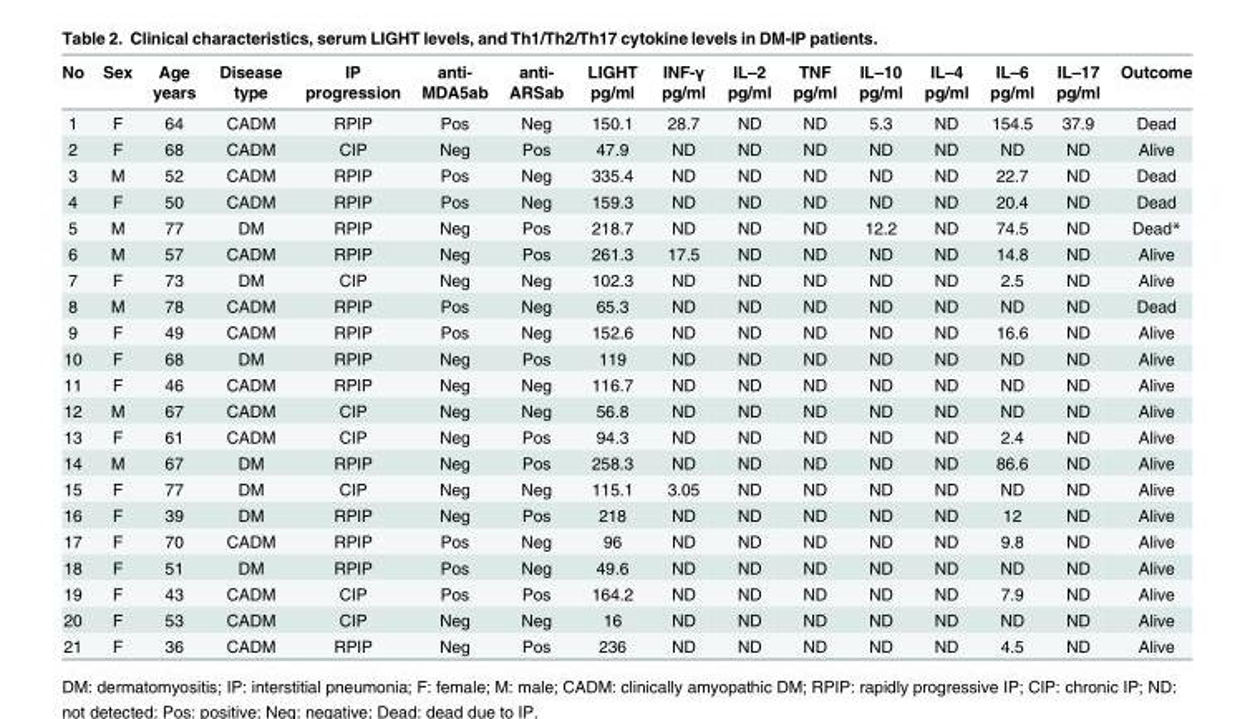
<table><thead><tr><td>No</td><td>Sex</td><td>Age years</td><td>Disease type</td><td>IP progression</td><td>anti- MDA5ab</td><td>anti- ARSab</td><td>LIGHT pg/ml</td><td>INF-γ pg/ml</td><td>IL–2 pg/ml</td><td>TNF pg/ml</td><td>IL–10 pg/ml</td><td>IL–4 pg/ml</td><td>IL–6 pg/ml</td><td>IL–17 pg/ml</td><td>Outcome</td></tr></thead><tbody><tr><td>1</td><td>F</td><td>64</td><td>CADM</td><td>RPIP</td><td>Pos</td><td>Neg</td><td>150.1</td><td>28.7</td><td>ND</td><td>ND</td><td>5.3</td><td>ND</td><td>154.5</td><td>37.9</td><td>Dead</td></tr><tr><td>2</td><td>F</td><td>68</td><td>CADM</td><td>CIP</td><td>Neg</td><td>Pos</td><td>47.9</td><td>ND</td><td>ND</td><td>ND</td><td>ND</td><td>ND</td><td>ND</td><td>ND</td><td>Alive</td></tr><tr><td>3</td><td>M</td><td>52</td><td>CADM</td><td>RPIP</td><td>Pos</td><td>Neg</td><td>335.4</td><td>ND</td><td>ND</td><td>ND</td><td>ND</td><td>ND</td><td>22.7</td><td>ND</td><td>Dead</td></tr><tr><td>4</td><td>F</td><td>50</td><td>CADM</td><td>RPIP</td><td>Pos</td><td>Neg</td><td>159.3</td><td>ND</td><td>ND</td><td>ND</td><td>ND</td><td>ND</td><td>20.4</td><td>ND</td><td>Dead</td></tr><tr><td>5</td><td>M</td><td>77</td><td>DM</td><td>RPIP</td><td>Neg</td><td>Pos</td><td>218.7</td><td>ND</td><td>ND</td><td>ND</td><td>12.2</td><td>ND</td><td>74.5</td><td>ND</td><td>Dead*</td></tr><tr><td>6</td><td>M</td><td>57</td><td>CADM</td><td>RPIP</td><td>Neg</td><td>Pos</td><td>261.3</td><td>17.5</td><td>ND</td><td>ND</td><td>ND</td><td>ND</td><td>14.8</td><td>ND</td><td>Alive</td></tr><tr><td>7</td><td>F</td><td>73</td><td>DM</td><td>CIP</td><td>Neg</td><td>Neg</td><td>102.3</td><td>ND</td><td>ND</td><td>ND</td><td>ND</td><td>ND</td><td>2.5</td><td>ND</td><td>Alive</td></tr><tr><td>8</td><td>M</td><td>78</td><td>CADM</td><td>RPIP</td><td>Pos</td><td>Neg</td><td>65.3</td><td>ND</td><td>ND</td><td>ND</td><td>ND</td><td>ND</td><td>ND</td><td>ND</td><td>Dead</td></tr><tr><td>9</td><td>F</td><td>49</td><td>CADM</td><td>RPIP</td><td>Pos</td><td>Neg</td><td>152.6</td><td>ND</td><td>ND</td><td>ND</td><td>ND</td><td>ND</td><td>16.6</td><td>ND</td><td>Alive</td></tr><tr><td>10</td><td>F</td><td>68</td><td>DM</td><td>RPIP</td><td>Neg</td><td>Pos</td><td>119</td><td>ND</td><td>ND</td><td>ND</td><td>ND</td><td>ND</td><td>ND</td><td>ND</td><td>Alive</td></tr><tr><td>11</td><td>F</td><td>46</td><td>CADM</td><td>RPIP</td><td>Neg</td><td>Neg</td><td>116.7</td><td>ND</td><td>ND</td><td>ND</td><td>ND</td><td>ND</td><td>ND</td><td>ND</td><td>Alive</td></tr><tr><td>12</td><td>M</td><td>67</td><td>CADM</td><td>CIP</td><td>Neg</td><td>Neg</td><td>56.8</td><td>ND</td><td>ND</td><td>ND</td><td>ND</td><td>ND</td><td>ND</td><td>ND</td><td>Alive</td></tr><tr><td>13</td><td>F</td><td>61</td><td>CADM</td><td>CIP</td><td>Neg</td><td>Pos</td><td>94.3</td><td>ND</td><td>ND</td><td>ND</td><td>ND</td><td>ND</td><td>2.4</td><td>ND</td><td>Alive</td></tr><tr><td>14</td><td>M</td><td>67</td><td>DM</td><td>RPIP</td><td>Neg</td><td>Pos</td><td>258.3</td><td>ND</td><td>ND</td><td>ND</td><td>ND</td><td>ND</td><td>86.6</td><td>ND</td><td>Alive</td></tr><tr><td>15</td><td>F</td><td>77</td><td>DM</td><td>CIP</td><td>Neg</td><td>Neg</td><td>115.1</td><td>3.05</td><td>ND</td><td>ND</td><td>ND</td><td>ND</td><td>ND</td><td>ND</td><td>Alive</td></tr><tr><td>16</td><td>F</td><td>39</td><td>DM</td><td>RPIP</td><td>Neg</td><td>Pos</td><td>218</td><td>ND</td><td>ND</td><td>ND</td><td>ND</td><td>ND</td><td>12</td><td>ND</td><td>Alive</td></tr><tr><td>17</td><td>F</td><td>70</td><td>CADM</td><td>RPIP</td><td>Pos</td><td>Neg</td><td>96</td><td>ND</td><td>ND</td><td>ND</td><td>ND</td><td>ND</td><td>9.8</td><td>ND</td><td>Alive</td></tr><tr><td>18</td><td>F</td><td>51</td><td>DM</td><td>RPIP</td><td>Pos</td><td>Neg</td><td>49.6</td><td>ND</td><td>ND</td><td>ND</td><td>ND</td><td>ND</td><td>ND</td><td>ND</td><td>Alive</td></tr><tr><td>19</td><td>F</td><td>43</td><td>CADM</td><td>CIP</td><td>Pos</td><td>Pos</td><td>164.2</td><td>ND</td><td>ND</td><td>ND</td><td>ND</td><td>ND</td><td>7.9</td><td>ND</td><td>Alive</td></tr><tr><td>20</td><td>F</td><td>53</td><td>CADM</td><td>CIP</td><td>Neg</td><td>Neg</td><td>16</td><td>ND</td><td>ND</td><td>ND</td><td>ND</td><td>ND</td><td>ND</td><td>ND</td><td>Alive</td></tr><tr><td>21</td><td>F</td><td>36</td><td>CADM</td><td>RPIP</td><td>Neg</td><td>Pos</td><td>236</td><td>ND</td><td>ND</td><td>ND</td><td>ND</td><td>ND</td><td>4.5</td><td>ND</td><td>Alive</td></tr></tbody></table>